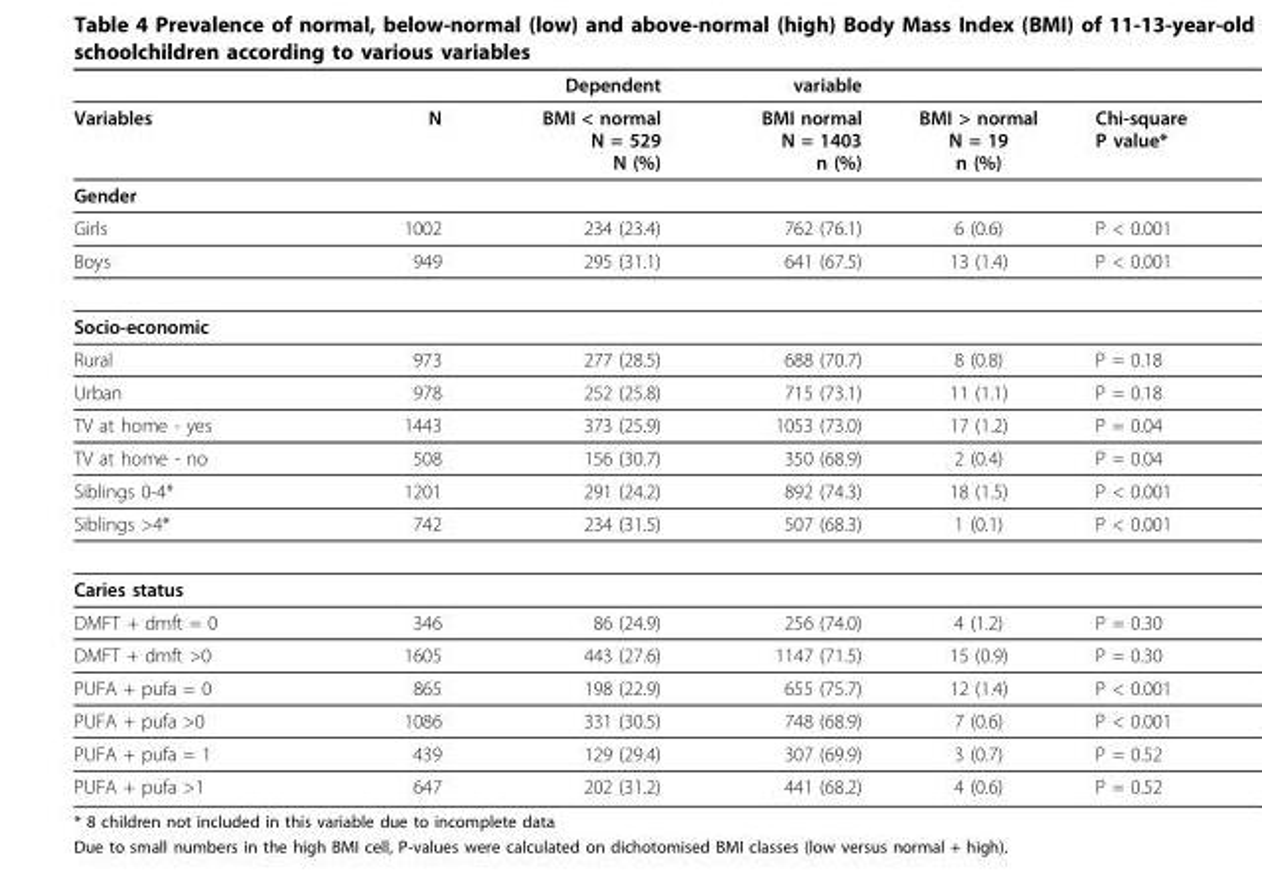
<table><thead><tr><td></td><td></td><td>Dependent</td><td>variable</td><td></td><td></td></tr></thead><tbody><tr><td>Variables</td><td>N</td><td>BMI &lt; normal N = 529 N (%)</td><td>BMI normal N = 1403 n (%)</td><td>BMI &gt; normal N = 19 n (%)</td><td>Chi-square P value*</td></tr><tr><td colspan="6">Gender</td></tr><tr><td>Girls</td><td>1002</td><td>234 (23.4)</td><td>762 (76.1)</td><td>6 (0.6)</td><td>P &lt; 0.001</td></tr><tr><td>Boys</td><td>949</td><td>295 (31.1)</td><td>641 (67.5)</td><td>13 (1.4)</td><td>P &lt; 0.001</td></tr><tr><td colspan="6">Socio-economic</td></tr><tr><td>Rural</td><td>973</td><td>277 (28.5)</td><td>688 (70.7)</td><td>8 (0.8)</td><td>P = 0.18</td></tr><tr><td>Urban</td><td>978</td><td>252 (25.8)</td><td>715 (73.1)</td><td>11 (1.1)</td><td>P = 0.18</td></tr><tr><td>TV at home - yes</td><td>1443</td><td>373 (25.9)</td><td>1053 (73.0)</td><td>17 (1.2)</td><td>P = 0.04</td></tr><tr><td>TV at home - no</td><td>508</td><td>156 (30.7)</td><td>350 (68.9)</td><td>2 (0.4)</td><td>P = 0.04</td></tr><tr><td>Siblings 0-4*</td><td>1201</td><td>291 (24.2)</td><td>892 (74.3)</td><td>18 (1.5)</td><td>P &lt; 0.001</td></tr><tr><td>Siblings &gt;4*</td><td>742</td><td>234 (31.5)</td><td>507 (68.3)</td><td>1 (0.1)</td><td>P &lt; 0.001</td></tr><tr><td colspan="6">Caries status</td></tr><tr><td>DMFT + dmft = 0</td><td>346</td><td>86 (24.9)</td><td>256 (74.0)</td><td>4 (1.2)</td><td>P = 0.30</td></tr><tr><td>DMFT + dmft &gt;0</td><td>1605</td><td>443 (27.6)</td><td>1147 (71.5)</td><td>15 (0.9)</td><td>P = 0.30</td></tr><tr><td>PUFA + pufa = 0</td><td>865</td><td>198 (22.9)</td><td>655 (75.7)</td><td>12 (1.4)</td><td>P &lt; 0.001</td></tr><tr><td>PUFA + pufa &gt;0</td><td>1086</td><td>331 (30.5)</td><td>748 (68.9)</td><td>7 (0.6)</td><td>P &lt; 0.001</td></tr><tr><td>PUFA + pufa = 1</td><td>439</td><td>129 (29.4)</td><td>307 (69.9)</td><td>3 (0.7)</td><td>P = 0.52</td></tr><tr><td>PUFA + pufa &gt;1</td><td>647</td><td>202 (31.2)</td><td>441 (68.2)</td><td>4 (0.6)</td><td>P = 0.52</td></tr></tbody></table>